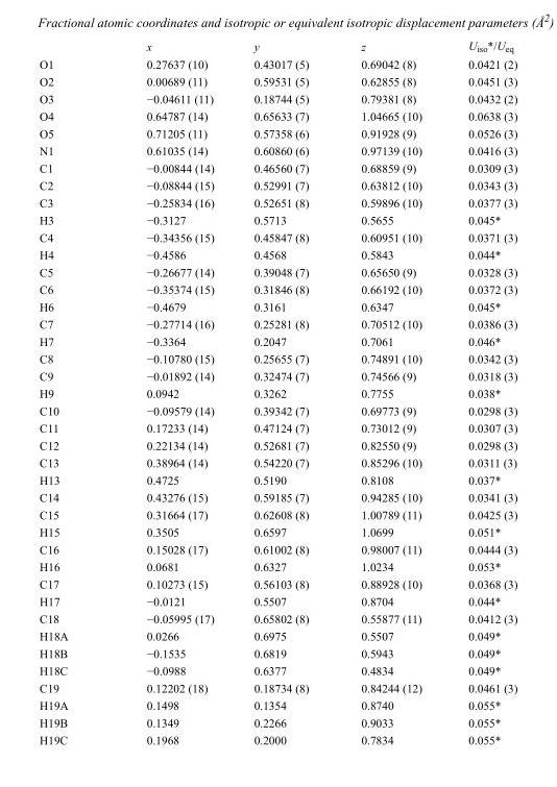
<table><thead><tr><td></td><td>x</td><td>y</td><td>z</td><td>U<sub>iso</sub>*/U<sub>eq</sub></td></tr></thead><tbody><tr><td>O1</td><td>0.27637 (10)</td><td>0.43017 (5)</td><td>0.69042 (8)</td><td>0.0421 (2)</td></tr><tr><td>O2</td><td>0.00689 (11)</td><td>0.59531 (5)</td><td>0.62855 (8)</td><td>0.0451 (3)</td></tr><tr><td>O3</td><td>−0.04611 (11)</td><td>0.18744 (5)</td><td>0.79381 (8)</td><td>0.0432 (2)</td></tr><tr><td>O4</td><td>0.64787 (14)</td><td>0.65633 (7)</td><td>1.04665 (10)</td><td>0.0638 (3)</td></tr><tr><td>O5</td><td>0.71205 (11)</td><td>0.57358 (6)</td><td>0.91928 (9)</td><td>0.0526 (3)</td></tr><tr><td>N1</td><td>0.61035 (14)</td><td>0.60860 (6)</td><td>0.97139 (10)</td><td>0.0416 (3)</td></tr><tr><td>C1</td><td>−0.00844 (14)</td><td>0.46560 (7)</td><td>0.68859 (9)</td><td>0.0309 (3)</td></tr><tr><td>C2</td><td>−0.08844 (15)</td><td>0.52991 (7)</td><td>0.63812 (10)</td><td>0.0343 (3)</td></tr><tr><td>C3</td><td>−0.25834 (16)</td><td>0.52651 (8)</td><td>0.59896 (10)</td><td>0.0377 (3)</td></tr><tr><td>H3</td><td>−0.3127</td><td>0.5713</td><td>0.5655</td><td>0.045*</td></tr><tr><td>C4</td><td>−0.34356 (15)</td><td>0.45847 (8)</td><td>0.60951 (10)</td><td>0.0371 (3)</td></tr><tr><td>H4</td><td>−0.4586</td><td>0.4568</td><td>0.5843</td><td>0.044*</td></tr><tr><td>C5</td><td>−0.26677 (14)</td><td>0.39048 (7)</td><td>0.65650 (9)</td><td>0.0328 (3)</td></tr><tr><td>C6</td><td>−0.35374 (15)</td><td>0.31846 (8)</td><td>0.66192 (10)</td><td>0.0372 (3)</td></tr><tr><td>H6</td><td>−0.4679</td><td>0.3161</td><td>0.6347</td><td>0.045*</td></tr><tr><td>C7</td><td>−0.27714 (16)</td><td>0.25281 (8)</td><td>0.70512 (10)</td><td>0.0386 (3)</td></tr><tr><td>H7</td><td>−0.3364</td><td>0.2047</td><td>0.7061</td><td>0.046*</td></tr><tr><td>C8</td><td>−0.10780 (15)</td><td>0.25655 (7)</td><td>0.74891 (10)</td><td>0.0342 (3)</td></tr><tr><td>C9</td><td>−0.01892 (14)</td><td>0.32474 (7)</td><td>0.74566 (9)</td><td>0.0318 (3)</td></tr><tr><td>H9</td><td>0.0942</td><td>0.3262</td><td>0.7755</td><td>0.038*</td></tr><tr><td>C10</td><td>−0.09579 (14)</td><td>0.39342 (7)</td><td>0.69773 (9)</td><td>0.0298 (3)</td></tr><tr><td>C11</td><td>0.17233 (14)</td><td>0.47124 (7)</td><td>0.73012 (9)</td><td>0.0307 (3)</td></tr><tr><td>C12</td><td>0.22134 (14)</td><td>0.52681 (7)</td><td>0.82550 (9)</td><td>0.0298 (3)</td></tr><tr><td>C13</td><td>0.38964 (14)</td><td>0.54220 (7)</td><td>0.85296 (10)</td><td>0.0311 (3)</td></tr><tr><td>H13</td><td>0.4725</td><td>0.5190</td><td>0.8108</td><td>0.037*</td></tr><tr><td>C14</td><td>0.43276 (15)</td><td>0.59185 (7)</td><td>0.94285 (10)</td><td>0.0341 (3)</td></tr><tr><td>C15</td><td>0.31664 (17)</td><td>0.62608 (8)</td><td>1.00789 (11)</td><td>0.0425 (3)</td></tr><tr><td>H15</td><td>0.3505</td><td>0.6597</td><td>1.0699</td><td>0.051*</td></tr><tr><td>C16</td><td>0.15028 (17)</td><td>0.61002 (8)</td><td>0.98007 (11)</td><td>0.0444 (3)</td></tr><tr><td>H16</td><td>0.0681</td><td>0.6327</td><td>1.0234</td><td>0.053*</td></tr><tr><td>C17</td><td>0.10273 (15)</td><td>0.56103 (8)</td><td>0.88928 (10)</td><td>0.0368 (3)</td></tr><tr><td>H17</td><td>−0.0121</td><td>0.5507</td><td>0.8704</td><td>0.044*</td></tr><tr><td>C18</td><td>−0.05995 (17)</td><td>0.65802 (8)</td><td>0.55877 (11)</td><td>0.0412 (3)</td></tr><tr><td>H18A</td><td>0.0266</td><td>0.6975</td><td>0.5507</td><td>0.049*</td></tr><tr><td>H18B</td><td>−0.1535</td><td>0.6819</td><td>0.5943</td><td>0.049*</td></tr><tr><td>H18C</td><td>−0.0988</td><td>0.6377</td><td>0.4834</td><td>0.049*</td></tr><tr><td>C19</td><td>0.12202 (18)</td><td>0.18734 (8)</td><td>0.84244 (12)</td><td>0.0461 (3)</td></tr><tr><td>H19A</td><td>0.1498</td><td>0.1354</td><td>0.8740</td><td>0.055*</td></tr><tr><td>H19B</td><td>0.1349</td><td>0.2266</td><td>0.9033</td><td>0.055*</td></tr><tr><td>H19C</td><td>0.1968</td><td>0.2000</td><td>0.7834</td><td>0.055*</td></tr></tbody></table>